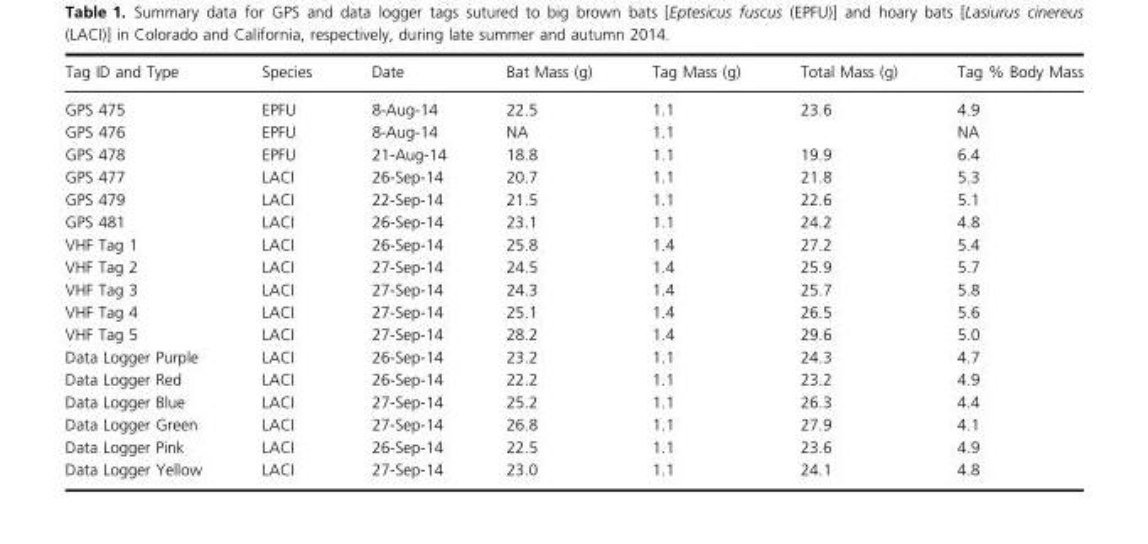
<table><thead><tr><td>Tag ID and Type</td><td>Species</td><td>Date</td><td>Bat Mass (g)</td><td>Tag Mass (g)</td><td>Total Mass (g)</td><td>Tag % Body Mass</td></tr></thead><tbody><tr><td>GPS 475</td><td>EPFU</td><td>8-Aug-14</td><td>22.5</td><td>1.1</td><td>23.6</td><td>4.9</td></tr><tr><td>GPS 476</td><td>EPFU</td><td>8-Aug-14</td><td>NA</td><td>1.1</td><td></td><td>NA</td></tr><tr><td>GPS 478</td><td>EPFU</td><td>21-Aug-14</td><td>18.8</td><td>1.1</td><td>19.9</td><td>6.4</td></tr><tr><td>GPS 477</td><td>LACI</td><td>26-Sep-14</td><td>20.7</td><td>1.1</td><td>21.8</td><td>5.3</td></tr><tr><td>GPS 479</td><td>LACI</td><td>22-Sep-14</td><td>21.5</td><td>1.1</td><td>22.6</td><td>5.1</td></tr><tr><td>GPS 481</td><td>LACI</td><td>26-Sep-14</td><td>23.1</td><td>1.1</td><td>24.2</td><td>4.8</td></tr><tr><td>VHF Tag 1</td><td>LACI</td><td>26-Sep-14</td><td>25.8</td><td>1.4</td><td>27.2</td><td>5.4</td></tr><tr><td>VHF Tag 2</td><td>LACI</td><td>27-Sep-14</td><td>24.5</td><td>1.4</td><td>25.9</td><td>5.7</td></tr><tr><td>VHF Tag 3</td><td>LACI</td><td>27-Sep-14</td><td>24.3</td><td>1.4</td><td>25.7</td><td>5.8</td></tr><tr><td>VHF Tag 4</td><td>LACI</td><td>27-Sep-14</td><td>25.1</td><td>1.4</td><td>26.5</td><td>5.6</td></tr><tr><td>VHF Tag 5</td><td>LACI</td><td>27-Sep-14</td><td>28.2</td><td>1.4</td><td>29.6</td><td>5.0</td></tr><tr><td>Data Logger Purple</td><td>LACI</td><td>26-Sep-14</td><td>23.2</td><td>1.1</td><td>24.3</td><td>4.7</td></tr><tr><td>Data Logger Red</td><td>LACI</td><td>26-Sep-14</td><td>22.2</td><td>1.1</td><td>23.2</td><td>4.9</td></tr><tr><td>Data Logger Blue</td><td>LACI</td><td>27-Sep-14</td><td>25.2</td><td>1.1</td><td>26.3</td><td>4.4</td></tr><tr><td>Data Logger Green</td><td>LACI</td><td>27-Sep-14</td><td>26.8</td><td>1.1</td><td>27.9</td><td>4.1</td></tr><tr><td>Data Logger Pink</td><td>LACI</td><td>26-Sep-14</td><td>22.5</td><td>1.1</td><td>23.6</td><td>4.9</td></tr><tr><td>Data Logger Yellow</td><td>LACI</td><td>27-Sep-14</td><td>23.0</td><td>1.1</td><td>24.1</td><td>4.8</td></tr></tbody></table>